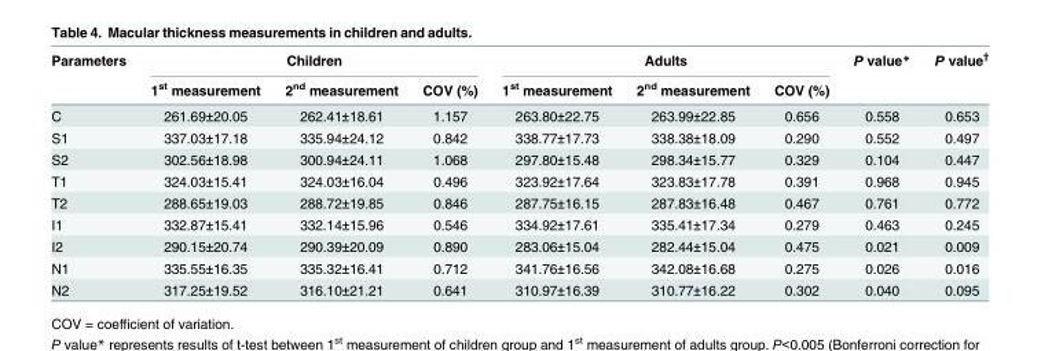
<table><thead><tr><td rowspan="2">Parameters</td><td colspan="3">Children</td><td colspan="3">Adults</td><td rowspan="2">P value*</td><td rowspan="2">P value<sup>†</sup></td></tr><tr><td>1<sup>st</sup> measurement</td><td>2<sup>nd</sup> measurement</td><td>COV (%)</td><td>1<sup>st</sup> measurement</td><td>2<sup>nd</sup> measurement</td><td>COV (%)</td></tr></thead><tbody><tr><td>C</td><td>261.69±20.05</td><td>262.41±18.61</td><td>1.157</td><td>263.80±22.75</td><td>263.99±22.85</td><td>0.656</td><td>0.558</td><td>0.653</td></tr><tr><td>S1</td><td>337.03±17.18</td><td>335.94±24.12</td><td>0.842</td><td>338.77±17.73</td><td>338.38±18.09</td><td>0.290</td><td>0.552</td><td>0.497</td></tr><tr><td>S2</td><td>302.56±18.98</td><td>300.94±24.11</td><td>1.068</td><td>297.80±15.48</td><td>298.34±15.77</td><td>0.329</td><td>0.104</td><td>0.447</td></tr><tr><td>T1</td><td>324.03±15.41</td><td>324.03±16.04</td><td>0.496</td><td>323.92±17.64</td><td>323.83±17.78</td><td>0.391</td><td>0.968</td><td>0.945</td></tr><tr><td>T2</td><td>288.65±19.03</td><td>288.72±19.85</td><td>0.846</td><td>287.75±16.15</td><td>287.83±16.48</td><td>0.467</td><td>0.761</td><td>0.772</td></tr><tr><td>I1</td><td>332.87±15.41</td><td>332.14±15.96</td><td>0.546</td><td>334.92±17.61</td><td>335.41±17.34</td><td>0.279</td><td>0.463</td><td>0.245</td></tr><tr><td>I2</td><td>290.15±20.74</td><td>290.39±20.09</td><td>0.890</td><td>283.06±15.04</td><td>282.44±15.04</td><td>0.475</td><td>0.021</td><td>0.009</td></tr><tr><td>N1</td><td>335.55±16.35</td><td>335.32±16.41</td><td>0.712</td><td>341.76±16.56</td><td>342.08±16.68</td><td>0.275</td><td>0.026</td><td>0.016</td></tr><tr><td>N2</td><td>317.25±19.52</td><td>316.10±21.21</td><td>0.641</td><td>310.97±16.39</td><td>310.77±16.22</td><td>0.302</td><td>0.040</td><td>0.095</td></tr></tbody></table>